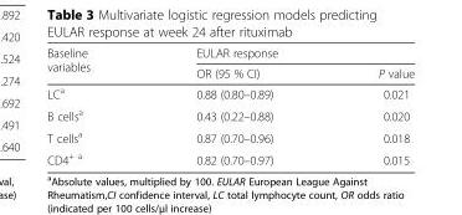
<table><thead><tr><td rowspan="2">Baseline variables</td><td colspan="2">EULAR response</td></tr><tr><td>OR (95 % CI)</td><td>P value</td></tr></thead><tbody><tr><td>LC<sup>a</sup></td><td>0.88 (0.80–0.89)</td><td>0.021</td></tr><tr><td>B cells<sup>a</sup></td><td>0.43 (0.22–0.88)</td><td>0.020</td></tr><tr><td>T cells<sup>a</sup></td><td>0.87 (0.70–0.96)</td><td>0.018</td></tr><tr><td>CD4<sup>+ a</sup></td><td>0.82 (0.70–0.97)</td><td>0.015</td></tr></tbody></table>